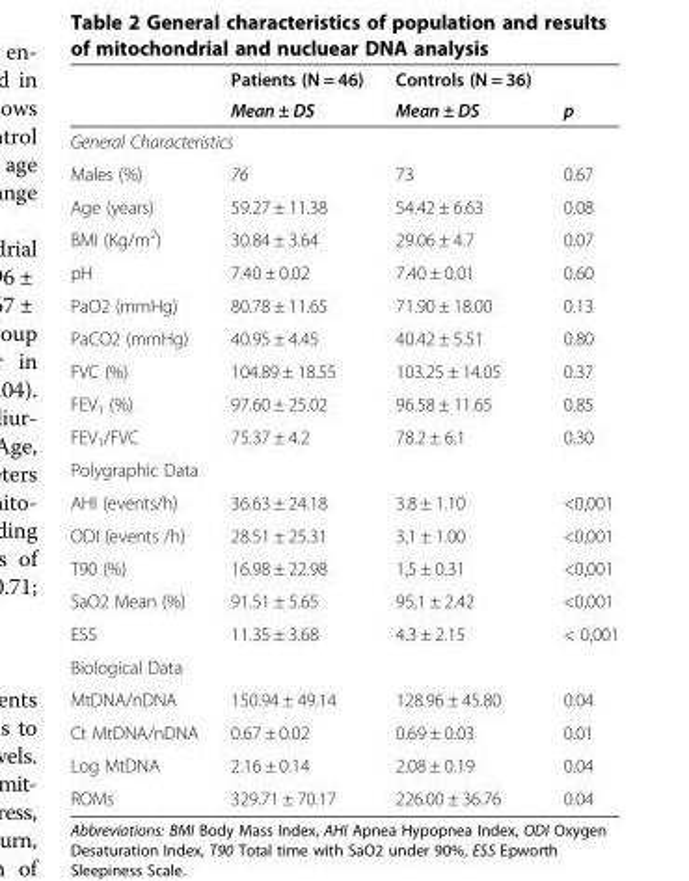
<table><thead><tr><td rowspan="2"></td><td rowspan="2">Patients (N = 46) Mean ± DS</td><td rowspan="2">Controls (N = 36) Mean ± DS</td><td rowspan="2">p</td></tr><tr></tr></thead><tbody><tr><td colspan="4">General Characteristics</td></tr><tr><td>Males (%)</td><td>76</td><td>73</td><td>0.67</td></tr><tr><td>Age (years)</td><td>59.27 ± 11.38</td><td>54.42 ± 6.63</td><td>0.08</td></tr><tr><td>BMI (Kg/m<sup>2</sup>)</td><td>30.84 ± 3.64</td><td>29.06 ± 4.7</td><td>0.07</td></tr><tr><td>pH</td><td>7.40 ± 0.02</td><td>7.40 ± 0.01</td><td>0.60</td></tr><tr><td>PaO2 (mmHg)</td><td>80.78 ± 11.65</td><td>71.90 ± 18.00</td><td>0.13</td></tr><tr><td>PaCO2 (mmHg)</td><td>40.95 ± 4.45</td><td>40.42 ± 5.51</td><td>0.80</td></tr><tr><td>FVC (%)</td><td>104.89 ± 18.55</td><td>103.25 ± 14.05</td><td>0.37</td></tr><tr><td>FEV<sub>1</sub> (%)</td><td>97.60 ± 25.02</td><td>96.58 ± 11.65</td><td>0.85</td></tr><tr><td>FEV<sub>1</sub>/FVC</td><td>75.37 ± 4.2</td><td>78.2 ± 6.1</td><td>0.30</td></tr><tr><td colspan="4">Polygraphic Data</td></tr><tr><td>AHI (events/h)</td><td>36.63 ± 24.18</td><td>3.8 ± 1.10</td><td>&lt;0,001</td></tr><tr><td>ODI (events /h)</td><td>28.51 ± 25.31</td><td>3,1 ± 1.00</td><td>&lt;0,001</td></tr><tr><td>T90 (%)</td><td>16.98 ± 22.98</td><td>1,5 ± 0.31</td><td>&lt;0,001</td></tr><tr><td>SaO2 Mean (%)</td><td>91.51 ± 5.65</td><td>95,1 ± 2.42</td><td>&lt;0,001</td></tr><tr><td>ESS</td><td>11.35 ± 3.68</td><td>4.3 ± 2.15</td><td>&lt; 0,001</td></tr><tr><td colspan="4">Biological Data</td></tr><tr><td>MtDNA/nDNA</td><td>150.94 ± 49.14</td><td>128.96 ± 45.80</td><td>0.04</td></tr><tr><td>Ct MtDNA/nDNA</td><td>0.67 ± 0.02</td><td>0.69 ± 0.03</td><td>0.01</td></tr><tr><td>Log MtDNA</td><td>2.16 ± 0.14</td><td>2.08 ± 0.19</td><td>0.04</td></tr><tr><td>ROMs</td><td>329.71 ± 70.17</td><td>226.00 ± 36.76</td><td>0.04</td></tr></tbody></table>